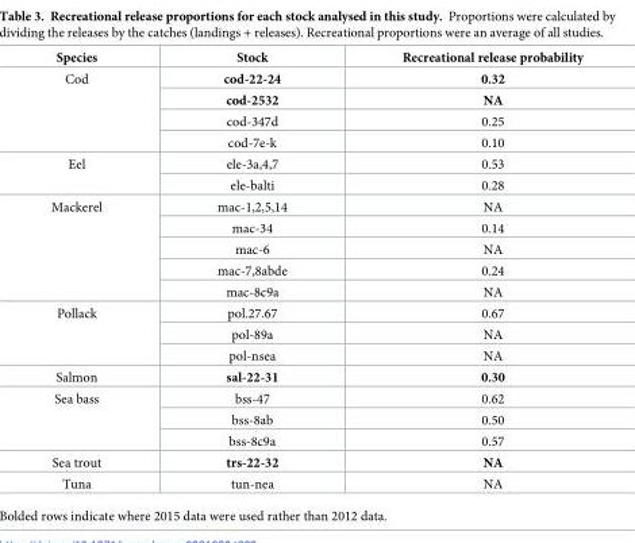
<table><thead><tr><td>Species</td><td>Stock</td><td>Recreational release probability</td></tr></thead><tbody><tr><td rowspan="4">Cod</td><td>cod-22-24</td><td>0.32</td></tr><tr><td>cod-2532</td><td>NA</td></tr><tr><td>cod-347d</td><td>0.25</td></tr><tr><td>cod-7e-k</td><td>0.10</td></tr><tr><td rowspan="2">Eel</td><td>ele-3a,4,7</td><td>0.53</td></tr><tr><td>ele-balti</td><td>0.28</td></tr><tr><td rowspan="5">Mackerel</td><td>mac-1,2,5,14</td><td>NA</td></tr><tr><td>mac-34</td><td>0.14</td></tr><tr><td>mac-6</td><td>NA</td></tr><tr><td>mac-7,8abde</td><td>0.24</td></tr><tr><td>mac-8c9a</td><td>NA</td></tr><tr><td rowspan="3">Pollack</td><td>pol.27.67</td><td>0.67</td></tr><tr><td>pol-89a</td><td>NA</td></tr><tr><td>pol-nsea</td><td>NA</td></tr><tr><td>Salmon</td><td>sal-22-31</td><td>0.30</td></tr><tr><td rowspan="3">Sea bass</td><td>bss-47</td><td>0.62</td></tr><tr><td>bss-8ab</td><td>0.50</td></tr><tr><td>bss-8c9a</td><td>0.57</td></tr><tr><td>Sea trout</td><td>trs-22-32</td><td>NA</td></tr><tr><td>Tuna</td><td>tun-nea</td><td>NA</td></tr></tbody></table>